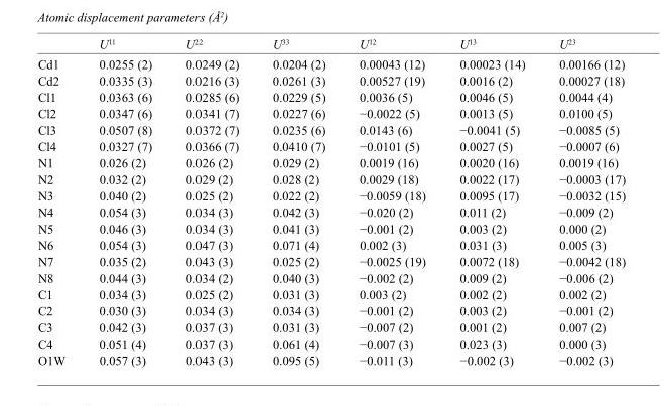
<table><thead><tr><td></td><td>U<sup>11</sup></td><td>U<sup>22</sup></td><td>U<sup>33</sup></td><td>U<sup>12</sup></td><td>U<sup>13</sup></td><td>U<sup>23</sup></td></tr></thead><tbody><tr><td>Cd1</td><td>0.0255 (2)</td><td>0.0249 (2)</td><td>0.0204 (2)</td><td>0.00043 (12)</td><td>0.00023 (14)</td><td>0.00166 (12)</td></tr><tr><td>Cd2</td><td>0.0335 (3)</td><td>0.0216 (3)</td><td>0.0261 (3)</td><td>0.00527 (19)</td><td>0.0016 (2)</td><td>0.00027 (18)</td></tr><tr><td>Cl1</td><td>0.0363 (6)</td><td>0.0285 (6)</td><td>0.0229 (5)</td><td>0.0036 (5)</td><td>0.0046 (5)</td><td>0.0044 (4)</td></tr><tr><td>Cl2</td><td>0.0347 (6)</td><td>0.0341 (7)</td><td>0.0227 (6)</td><td>−0.0022 (5)</td><td>0.0013 (5)</td><td>0.0100 (5)</td></tr><tr><td>Cl3</td><td>0.0507 (8)</td><td>0.0372 (7)</td><td>0.0235 (6)</td><td>0.0143 (6)</td><td>−0.0041 (5)</td><td>−0.0085 (5)</td></tr><tr><td>Cl4</td><td>0.0327 (7)</td><td>0.0366 (7)</td><td>0.0410 (7)</td><td>−0.0101 (5)</td><td>0.0027 (5)</td><td>−0.0007 (6)</td></tr><tr><td>N1</td><td>0.026 (2)</td><td>0.026 (2)</td><td>0.029 (2)</td><td>0.0019 (16)</td><td>0.0020 (16)</td><td>0.0019 (16)</td></tr><tr><td>N2</td><td>0.032 (2)</td><td>0.029 (2)</td><td>0.028 (2)</td><td>0.0029 (18)</td><td>0.0022 (17)</td><td>−0.0003 (17)</td></tr><tr><td>N3</td><td>0.040 (2)</td><td>0.025 (2)</td><td>0.022 (2)</td><td>−0.0059 (18)</td><td>0.0095 (17)</td><td>−0.0032 (15)</td></tr><tr><td>N4</td><td>0.054 (3)</td><td>0.034 (3)</td><td>0.042 (3)</td><td>−0.020 (2)</td><td>0.011 (2)</td><td>−0.009 (2)</td></tr><tr><td>N5</td><td>0.046 (3)</td><td>0.034 (3)</td><td>0.041 (3)</td><td>−0.001 (2)</td><td>0.003 (2)</td><td>0.000 (2)</td></tr><tr><td>N6</td><td>0.054 (3)</td><td>0.047 (3)</td><td>0.071 (4)</td><td>0.002 (3)</td><td>0.031 (3)</td><td>0.005 (3)</td></tr><tr><td>N7</td><td>0.035 (2)</td><td>0.043 (3)</td><td>0.025 (2)</td><td>−0.0025 (19)</td><td>0.0072 (18)</td><td>−0.0042 (18)</td></tr><tr><td>N8</td><td>0.044 (3)</td><td>0.034 (2)</td><td>0.040 (3)</td><td>−0.002 (2)</td><td>0.009 (2)</td><td>−0.006 (2)</td></tr><tr><td>C1</td><td>0.034 (3)</td><td>0.025 (2)</td><td>0.031 (3)</td><td>0.003 (2)</td><td>0.002 (2)</td><td>0.002 (2)</td></tr><tr><td>C2</td><td>0.030 (3)</td><td>0.034 (3)</td><td>0.034 (3)</td><td>−0.001 (2)</td><td>0.003 (2)</td><td>−0.001 (2)</td></tr><tr><td>C3</td><td>0.042 (3)</td><td>0.037 (3)</td><td>0.031 (3)</td><td>−0.007 (2)</td><td>0.001 (2)</td><td>0.007 (2)</td></tr><tr><td>C4</td><td>0.051 (4)</td><td>0.037 (3)</td><td>0.061 (4)</td><td>−0.007 (3)</td><td>0.023 (3)</td><td>0.000 (3)</td></tr><tr><td>O1W</td><td>0.057 (3)</td><td>0.043 (3)</td><td>0.095 (5)</td><td>−0.011 (3)</td><td>−0.002 (3)</td><td>−0.002 (3)</td></tr></tbody></table>